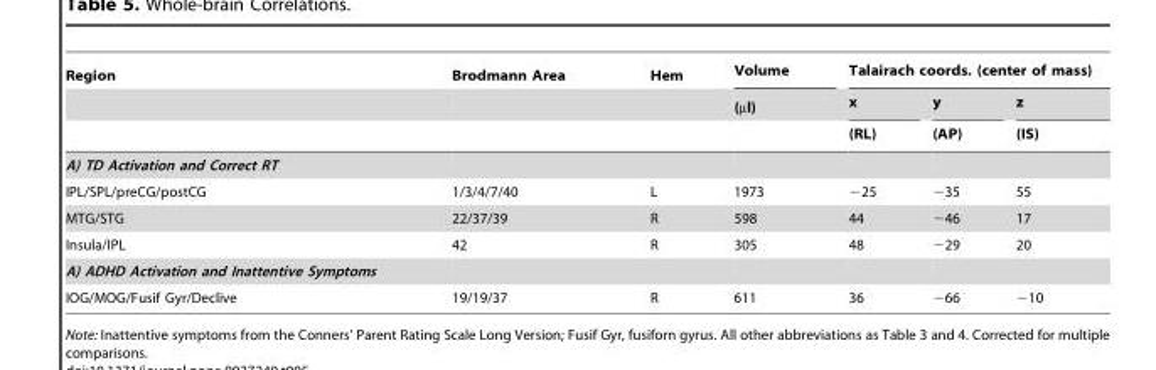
<table><thead><tr><td rowspan="3">Region</td><td rowspan="3">Brodmann Area</td><td rowspan="3">Hem</td><td rowspan="3">Volume (µl)</td><td colspan="3">Talairach coords. (center of mass)</td></tr><tr><td rowspan="2">x (RL)</td><td rowspan="2">y (AP)</td><td rowspan="2">z (IS)</td></tr><tr></tr></thead><tbody><tr><td colspan="7">A) TD Activation and Correct RT</td></tr><tr><td>IPL/SPL/preCG/postCG</td><td>1/3/4/7/40</td><td>L</td><td>1973</td><td>−25</td><td>−35</td><td>55</td></tr><tr><td>MTG/STG</td><td>22/37/39</td><td>R</td><td>598</td><td>44</td><td>−46</td><td>17</td></tr><tr><td>Insula/IPL</td><td>42</td><td>R</td><td>305</td><td>48</td><td>−29</td><td>20</td></tr><tr><td colspan="7">A) ADHD Activation and Inattentive Symptoms</td></tr><tr><td>IOG/MOG/Fusif Gyr/Declive</td><td>19/19/37</td><td>R</td><td>611</td><td>36</td><td>−66</td><td>−10</td></tr></tbody></table>